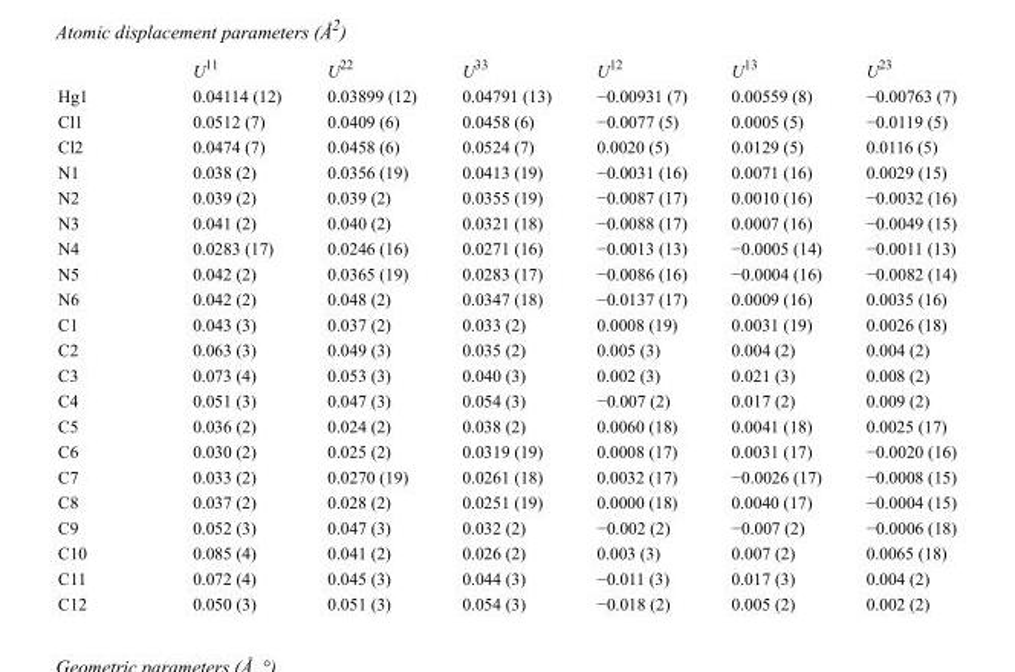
<table><thead><tr><td></td><td>U<sup>11</sup></td><td>U<sup>22</sup></td><td>U<sup>33</sup></td><td>U<sup>12</sup></td><td>U<sup>13</sup></td><td>U<sup>23</sup></td></tr></thead><tbody><tr><td>Hg1</td><td>0.04114 (12)</td><td>0.03899 (12)</td><td>0.04791 (13)</td><td>−0.00931 (7)</td><td>0.00559 (8)</td><td>−0.00763 (7)</td></tr><tr><td>Cl1</td><td>0.0512 (7)</td><td>0.0409 (6)</td><td>0.0458 (6)</td><td>−0.0077 (5)</td><td>0.0005 (5)</td><td>−0.0119 (5)</td></tr><tr><td>Cl2</td><td>0.0474 (7)</td><td>0.0458 (6)</td><td>0.0524 (7)</td><td>0.0020 (5)</td><td>0.0129 (5)</td><td>0.0116 (5)</td></tr><tr><td>N1</td><td>0.038 (2)</td><td>0.0356 (19)</td><td>0.0413 (19)</td><td>−0.0031 (16)</td><td>0.0071 (16)</td><td>0.0029 (15)</td></tr><tr><td>N2</td><td>0.039 (2)</td><td>0.039 (2)</td><td>0.0355 (19)</td><td>−0.0087 (17)</td><td>0.0010 (16)</td><td>−0.0032 (16)</td></tr><tr><td>N3</td><td>0.041 (2)</td><td>0.040 (2)</td><td>0.0321 (18)</td><td>−0.0088 (17)</td><td>0.0007 (16)</td><td>−0.0049 (15)</td></tr><tr><td>N4</td><td>0.0283 (17)</td><td>0.0246 (16)</td><td>0.0271 (16)</td><td>−0.0013 (13)</td><td>−0.0005 (14)</td><td>−0.0011 (13)</td></tr><tr><td>N5</td><td>0.042 (2)</td><td>0.0365 (19)</td><td>0.0283 (17)</td><td>−0.0086 (16)</td><td>−0.0004 (16)</td><td>−0.0082 (14)</td></tr><tr><td>N6</td><td>0.042 (2)</td><td>0.048 (2)</td><td>0.0347 (18)</td><td>−0.0137 (17)</td><td>0.0009 (16)</td><td>0.0035 (16)</td></tr><tr><td>C1</td><td>0.043 (3)</td><td>0.037 (2)</td><td>0.033 (2)</td><td>0.0008 (19)</td><td>0.0031 (19)</td><td>0.0026 (18)</td></tr><tr><td>C2</td><td>0.063 (3)</td><td>0.049 (3)</td><td>0.035 (2)</td><td>0.005 (3)</td><td>0.004 (2)</td><td>0.004 (2)</td></tr><tr><td>C3</td><td>0.073 (4)</td><td>0.053 (3)</td><td>0.040 (3)</td><td>0.002 (3)</td><td>0.021 (3)</td><td>0.008 (2)</td></tr><tr><td>C4</td><td>0.051 (3)</td><td>0.047 (3)</td><td>0.054 (3)</td><td>−0.007 (2)</td><td>0.017 (2)</td><td>0.009 (2)</td></tr><tr><td>C5</td><td>0.036 (2)</td><td>0.024 (2)</td><td>0.038 (2)</td><td>0.0060 (18)</td><td>0.0041 (18)</td><td>0.0025 (17)</td></tr><tr><td>C6</td><td>0.030 (2)</td><td>0.025 (2)</td><td>0.0319 (19)</td><td>0.0008 (17)</td><td>0.0031 (17)</td><td>−0.0020 (16)</td></tr><tr><td>C7</td><td>0.033 (2)</td><td>0.0270 (19)</td><td>0.0261 (18)</td><td>0.0032 (17)</td><td>−0.0026 (17)</td><td>−0.0008 (15)</td></tr><tr><td>C8</td><td>0.037 (2)</td><td>0.028 (2)</td><td>0.0251 (19)</td><td>0.0000 (18)</td><td>0.0040 (17)</td><td>−0.0004 (15)</td></tr><tr><td>C9</td><td>0.052 (3)</td><td>0.047 (3)</td><td>0.032 (2)</td><td>−0.002 (2)</td><td>−0.007 (2)</td><td>−0.0006 (18)</td></tr><tr><td>C10</td><td>0.085 (4)</td><td>0.041 (2)</td><td>0.026 (2)</td><td>0.003 (3)</td><td>0.007 (2)</td><td>0.0065 (18)</td></tr><tr><td>C11</td><td>0.072 (4)</td><td>0.045 (3)</td><td>0.044 (3)</td><td>−0.011 (3)</td><td>0.017 (3)</td><td>0.004 (2)</td></tr><tr><td>C12</td><td>0.050 (3)</td><td>0.051 (3)</td><td>0.054 (3)</td><td>−0.018 (2)</td><td>0.005 (2)</td><td>0.002 (2)</td></tr></tbody></table>